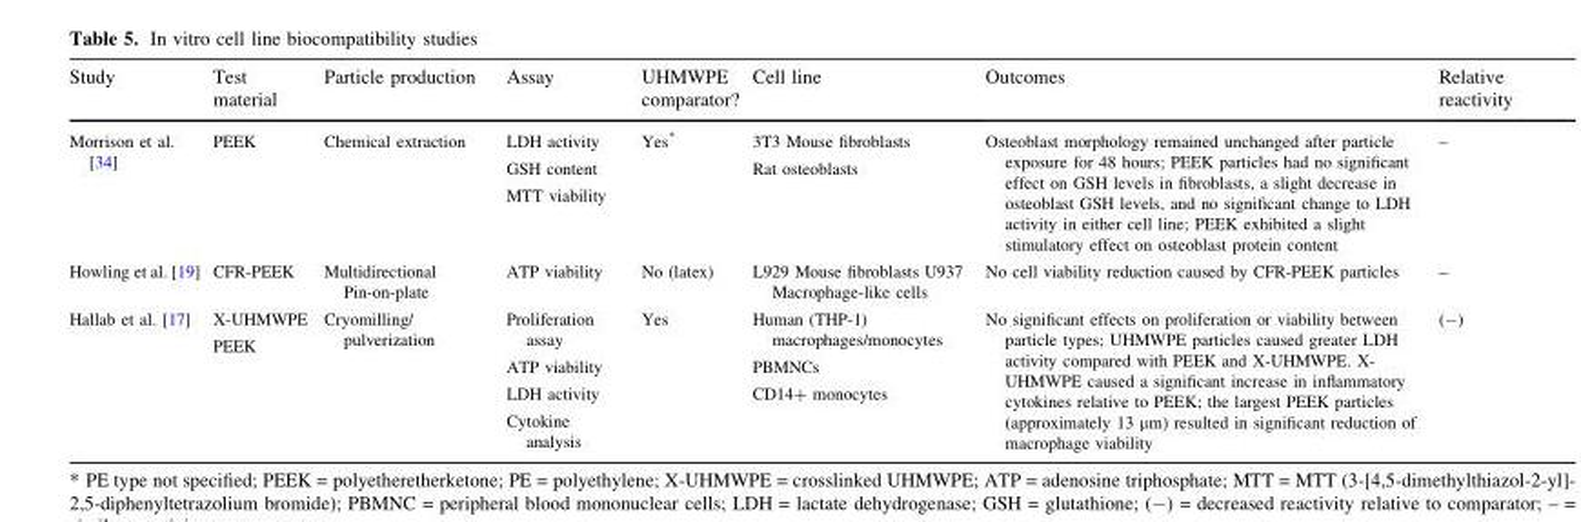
<table><thead><tr><td>Study</td><td>Test material</td><td>Particle production</td><td>Assay</td><td>UHMWPE comparator?</td><td>Cell line</td><td>Outcomes</td><td>Relative reactivity</td></tr></thead><tbody><tr><td>Morrison et al. [34]</td><td>PEEK</td><td>Chemical extraction</td><td>LDH activity GSH content MTT viability</td><td>Yes*</td><td>3T3 Mouse fibroblasts Rat osteoblasts</td><td>Osteoblast morphology remained unchanged after particle exposure for 48 hours; PEEK particles had no significant effect on GSH levels in fibroblasts, a slight decrease in osteoblast GSH levels, and no significant change to LDH activity in either cell line; PEEK exhibited a slight stimulatory effect on osteoblast protein content</td><td>–</td></tr><tr><td>Howling et al. [19]</td><td>CFR-PEEK</td><td>Multidirectional Pin-on-plate</td><td>ATP viability</td><td>No (latex)</td><td>L929 Mouse fibroblasts U937 Macrophage-like cells</td><td>No cell viability reduction caused by CFR-PEEK particles</td><td>–</td></tr><tr><td>Hallab et al. [17]</td><td>X-UHMWPE PEEK</td><td>Cryomilling/ pulverization</td><td>Proliferation assay ATP viability LDH activity Cytokine analysis</td><td>Yes</td><td>Human (THP-1) macrophages/monocytes PBMNCs CD14+ monocytes</td><td>No significant effects on proliferation or viability between particle types; UHMWPE particles caused greater LDH activity compared with PEEK and X-UHMWPE. X- UHMWPE caused a significant increase in inflammatory cytokines relative to PEEK; the largest PEEK particles (approximately 13 μm) resulted in significant reduction of macrophage viability</td><td>(−)</td></tr></tbody></table>